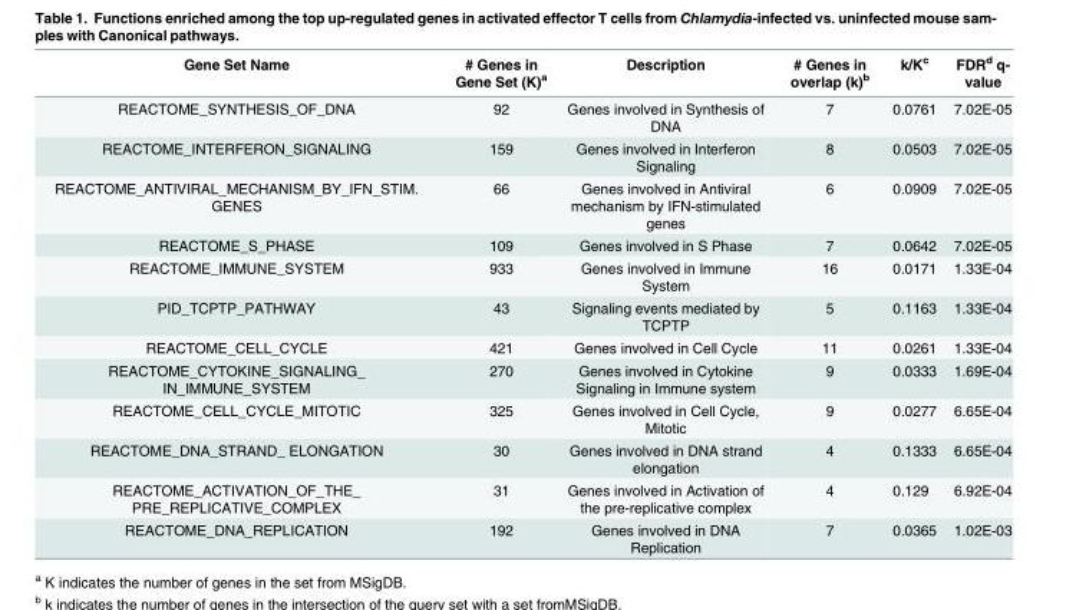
<table><thead><tr><td>Gene Set Name</td><td># Genes in Gene Set (K)<sup>a</sup></td><td>Description</td><td># Genes in overlap (k)<sup>b</sup></td><td>k/K<sup>c</sup></td><td>FDR<sup>d</sup> q- value</td></tr></thead><tbody><tr><td>REACTOME_SYNTHESIS_OF_DNA</td><td>92</td><td>Genes involved in Synthesis of DNA</td><td>7</td><td>0.0761</td><td>7.02E-05</td></tr><tr><td>REACTOME_INTERFERON_SIGNALING</td><td>159</td><td>Genes involved in Interferon Signaling</td><td>8</td><td>0.0503</td><td>7.02E-05</td></tr><tr><td>REACTOME_ANTIVIRAL_MECHANISM_BY_IFN_STIM. GENES</td><td>66</td><td>Genes involved in Antiviral mechanism by IFN-stimulated genes</td><td>6</td><td>0.0909</td><td>7.02E-05</td></tr><tr><td>REACTOME_S_PHASE</td><td>109</td><td>Genes involved in S Phase</td><td>7</td><td>0.0642</td><td>7.02E-05</td></tr><tr><td>REACTOME_IMMUNE_SYSTEM</td><td>933</td><td>Genes involved in Immune System</td><td>16</td><td>0.0171</td><td>1.33E-04</td></tr><tr><td>PID_TCPTP_PATHWAY</td><td>43</td><td>Signaling events mediated by TCPTP</td><td>5</td><td>0.1163</td><td>1.33E-04</td></tr><tr><td>REACTOME_CELL_CYCLE</td><td>421</td><td>Genes involved in Cell Cycle</td><td>11</td><td>0.0261</td><td>1.33E-04</td></tr><tr><td>REACTOME_CYTOKINE_SIGNALING_ IN_IMMUNE_SYSTEM</td><td>270</td><td>Genes involved in Cytokine Signaling in Immune system</td><td>9</td><td>0.0333</td><td>1.69E-04</td></tr><tr><td>REACTOME_CELL_CYCLE_MITOTIC</td><td>325</td><td>Genes involved in Cell Cycle, Mitotic</td><td>9</td><td>0.0277</td><td>6.65E-04</td></tr><tr><td>REACTOME_DNA_STRAND_ ELONGATION</td><td>30</td><td>Genes involved in DNA strand elongation</td><td>4</td><td>0.1333</td><td>6.65E-04</td></tr><tr><td>REACTOME_ACTIVATION_OF_THE_ PRE_REPLICATIVE_COMPLEX</td><td>31</td><td>Genes involved in Activation of the pre-replicative complex</td><td>4</td><td>0.129</td><td>6.92E-04</td></tr><tr><td>REACTOME_DNA_REPLICATION</td><td>192</td><td>Genes involved in DNA Replication</td><td>7</td><td>0.0365</td><td>1.02E-03</td></tr></tbody></table>